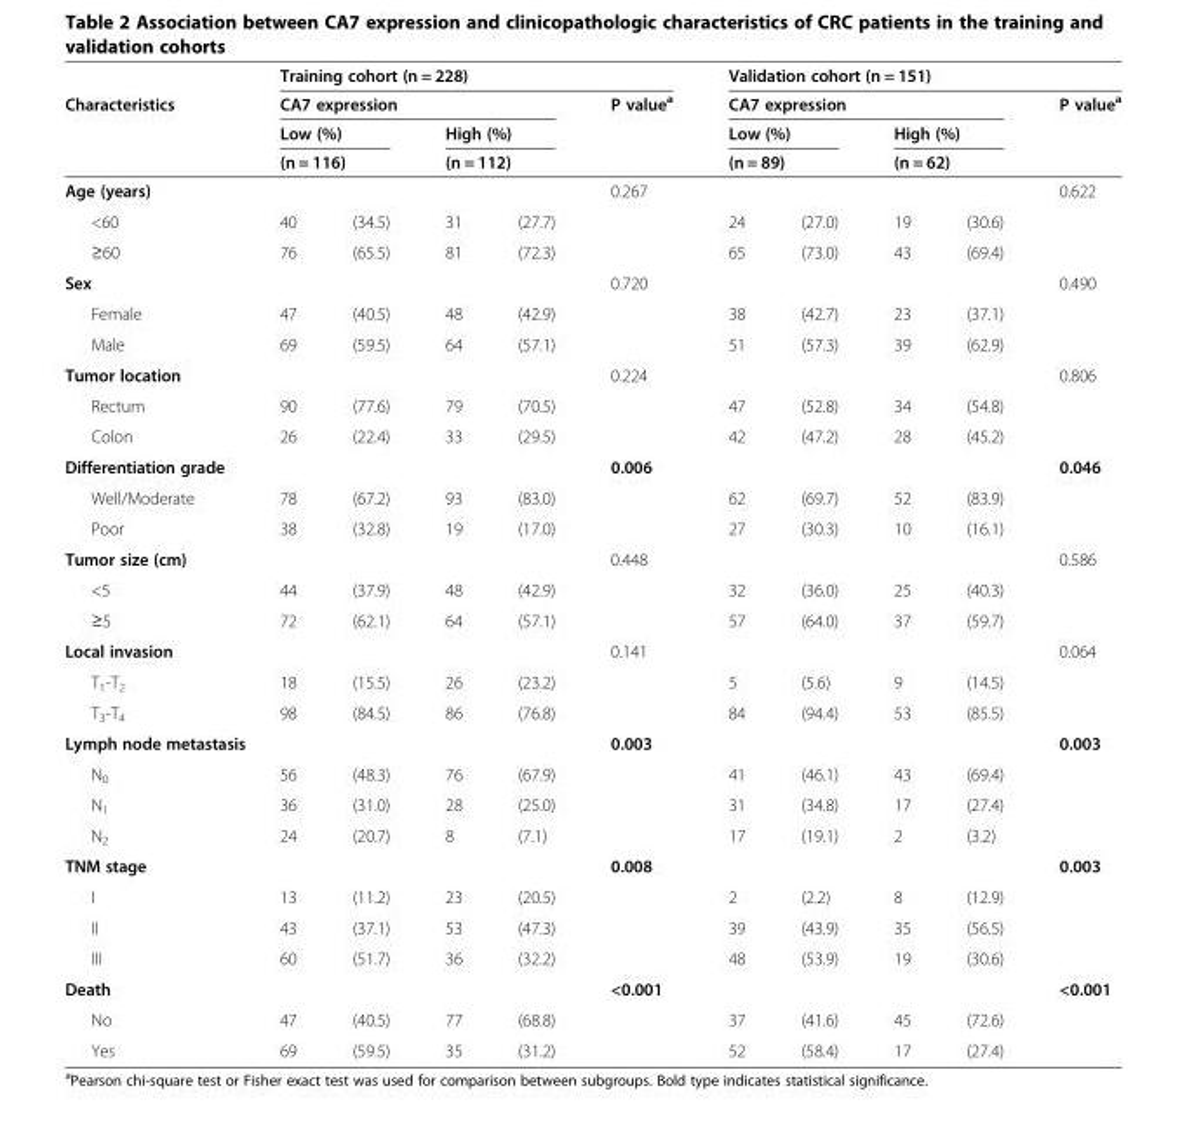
<table><thead><tr><td rowspan="5">Characteristics Age (years)</td><td colspan="5">Training cohort (n = 228)</td><td colspan="5">Validation cohort (n = 151)</td></tr><tr><td colspan="4">CA7 expression</td><td rowspan="4">P value<sup>a</sup> 0.267</td><td colspan="4">CA7 expression</td><td rowspan="4">P value<sup>a</sup> 0.622</td></tr><tr><td rowspan="2" colspan="2">Low (%) (n = 116)</td><td rowspan="2" colspan="2">High (%) (n = 112)</td><td rowspan="2" colspan="2">Low (%) (n = 89)</td><td rowspan="2" colspan="2">High (%) (n = 62)</td></tr><tr></tr><tr><td></td><td></td><td></td><td></td><td></td><td></td><td></td><td></td></tr></thead><tbody><tr><td>&lt;60</td><td>40</td><td>(34.5)</td><td>31</td><td>(27.7)</td><td></td><td>24</td><td>(27.0)</td><td>19</td><td>(30.6)</td><td></td></tr><tr><td>≥60</td><td>76</td><td>(65.5)</td><td>81</td><td>(72.3)</td><td></td><td>65</td><td>(73.0)</td><td>43</td><td>(69.4)</td><td></td></tr><tr><td>Sex</td><td></td><td></td><td></td><td></td><td>0.720</td><td></td><td></td><td></td><td></td><td>0.490</td></tr><tr><td>Female</td><td>47</td><td>(40.5)</td><td>48</td><td>(42.9)</td><td></td><td>38</td><td>(42.7)</td><td>23</td><td>(37.1)</td><td></td></tr><tr><td>Male</td><td>69</td><td>(59.5)</td><td>64</td><td>(57.1)</td><td></td><td>51</td><td>(57.3)</td><td>39</td><td>(62.9)</td><td></td></tr><tr><td>Tumor location</td><td></td><td></td><td></td><td></td><td>0.224</td><td></td><td></td><td></td><td></td><td>0.806</td></tr><tr><td>Rectum</td><td>90</td><td>(77.6)</td><td>79</td><td>(70.5)</td><td></td><td>47</td><td>(52.8)</td><td>34</td><td>(54.8)</td><td></td></tr><tr><td>Colon</td><td>26</td><td>(22.4)</td><td>33</td><td>(29.5)</td><td></td><td>42</td><td>(47.2)</td><td>28</td><td>(45.2)</td><td></td></tr><tr><td>Differentiation grade</td><td></td><td></td><td></td><td></td><td>0.006</td><td></td><td></td><td></td><td></td><td>0.046</td></tr><tr><td>Well/Moderate</td><td>78</td><td>(67.2)</td><td>93</td><td>(83.0)</td><td></td><td>62</td><td>(69.7)</td><td>52</td><td>(83.9)</td><td></td></tr><tr><td>Poor</td><td>38</td><td>(32.8)</td><td>19</td><td>(17.0)</td><td></td><td>27</td><td>(30.3)</td><td>10</td><td>(16.1)</td><td></td></tr><tr><td>Tumor size (cm)</td><td></td><td></td><td></td><td></td><td>0.448</td><td></td><td></td><td></td><td></td><td>0.586</td></tr><tr><td>&lt;5</td><td>44</td><td>(37.9)</td><td>48</td><td>(42.9)</td><td></td><td>32</td><td>(36.0)</td><td>25</td><td>(40.3)</td><td></td></tr><tr><td>≥5</td><td>72</td><td>(62.1)</td><td>64</td><td>(57.1)</td><td></td><td>57</td><td>(64.0)</td><td>37</td><td>(59.7)</td><td></td></tr><tr><td>Local invasion</td><td></td><td></td><td></td><td></td><td>0.141</td><td></td><td></td><td></td><td></td><td>0.064</td></tr><tr><td>T<sub>1</sub>-T<sub>2</sub></td><td>18</td><td>(15.5)</td><td>26</td><td>(23.2)</td><td></td><td>5</td><td>(5.6)</td><td>9</td><td>(14.5)</td><td></td></tr><tr><td>T<sub>3</sub>-T<sub>4</sub></td><td>98</td><td>(84.5)</td><td>86</td><td>(76.8)</td><td></td><td>84</td><td>(94.4)</td><td>53</td><td>(85.5)</td><td></td></tr><tr><td colspan="2">Lymph node metastasis</td><td></td><td></td><td></td><td>0.003</td><td></td><td></td><td></td><td></td><td>0.003</td></tr><tr><td>N<sub>0</sub></td><td>56</td><td>(48.3)</td><td>76</td><td>(67.9)</td><td></td><td>41</td><td>(46.1)</td><td>43</td><td>(69.4)</td><td></td></tr><tr><td>N<sub>1</sub></td><td>36</td><td>(31.0)</td><td>28</td><td>(25.0)</td><td></td><td>31</td><td>(34.8)</td><td>17</td><td>(27.4)</td><td></td></tr><tr><td>N<sub>2</sub></td><td>24</td><td>(20.7)</td><td>8</td><td>(7.1)</td><td></td><td>17</td><td>(19.1)</td><td>2</td><td>(3.2)</td><td></td></tr><tr><td>TNM stage</td><td></td><td></td><td></td><td></td><td>0.008</td><td></td><td></td><td></td><td></td><td>0.003</td></tr><tr><td>I</td><td>13</td><td>(11.2)</td><td>23</td><td>(20.5)</td><td></td><td>2</td><td>(2.2)</td><td>8</td><td>(12.9)</td><td></td></tr><tr><td>II</td><td>43</td><td>(37.1)</td><td>53</td><td>(47.3)</td><td></td><td>39</td><td>(43.9)</td><td>35</td><td>(56.5)</td><td></td></tr><tr><td>III</td><td>60</td><td>(51.7)</td><td>36</td><td>(32.2)</td><td></td><td>48</td><td>(53.9)</td><td>19</td><td>(30.6)</td><td></td></tr><tr><td>Death</td><td></td><td></td><td></td><td></td><td>&lt;0.001</td><td></td><td></td><td></td><td></td><td>&lt;0.001</td></tr><tr><td>No</td><td>47</td><td>(40.5)</td><td>77</td><td>(68.8)</td><td></td><td>37</td><td>(41.6)</td><td>45</td><td>(72.6)</td><td></td></tr><tr><td>Yes</td><td>69</td><td>(59.5)</td><td>35</td><td>(31.2)</td><td></td><td>52</td><td>(58.4)</td><td>17</td><td>(27.4)</td><td></td></tr></tbody></table>